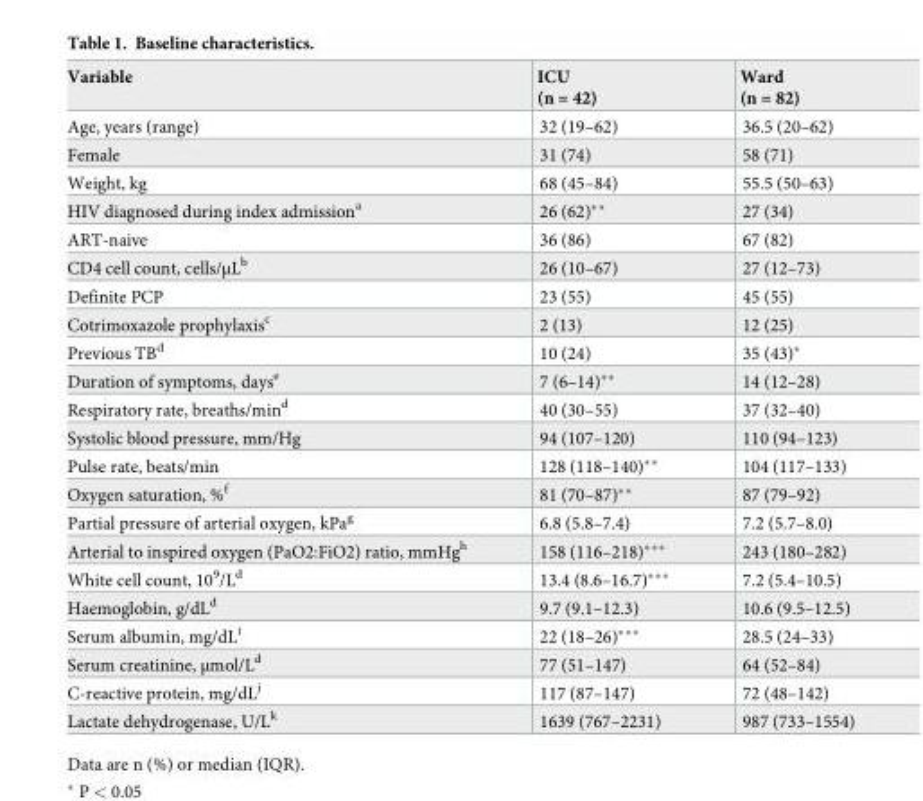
<table><thead><tr><td>Variable</td><td>ICU (n = 42)</td><td>Ward (n = 82)</td></tr></thead><tbody><tr><td>Age, years (range)</td><td>32 (19–62)</td><td>36.5 (20–62)</td></tr><tr><td>Female</td><td>31 (74)</td><td>58 (71)</td></tr><tr><td>Weight, kg</td><td>68 (45–84)</td><td>55.5 (50–63)</td></tr><tr><td>HIV diagnosed during index admission<sup>a</sup></td><td>26 (62)**</td><td>27 (34)</td></tr><tr><td>ART-naive</td><td>36 (86)</td><td>67 (82)</td></tr><tr><td>CD4 cell count, cells/μL<sup>b</sup></td><td>26 (10–67)</td><td>27 (12–73)</td></tr><tr><td>Definite PCP</td><td>23 (55)</td><td>45 (55)</td></tr><tr><td>Cotrimoxazole prophylaxis<sup>c</sup></td><td>2 (13)</td><td>12 (25)</td></tr><tr><td>Previous TB<sup>d</sup></td><td>10 (24)</td><td>35 (43)*</td></tr><tr><td>Duration of symptoms, days<sup>e</sup></td><td>7 (6–14)**</td><td>14 (12–28)</td></tr><tr><td>Respiratory rate, breaths/min<sup>d</sup></td><td>40 (30–55)</td><td>37 (32–40)</td></tr><tr><td>Systolic blood pressure, mm/Hg</td><td>94 (107–120)</td><td>110 (94–123)</td></tr><tr><td>Pulse rate, beats/min</td><td>128 (118–140)**</td><td>104 (117–133)</td></tr><tr><td>Oxygen saturation, %<sup>f</sup></td><td>81 (70–87)**</td><td>87 (79–92)</td></tr><tr><td>Partial pressure of arterial oxygen, kPa<sup>g</sup></td><td>6.8 (5.8–7.4)</td><td>7.2 (5.7–8.0)</td></tr><tr><td>Arterial to inspired oxygen (PaO2:FiO2) ratio, mmHg<sup>h</sup></td><td>158 (116–218)***</td><td>243 (180–282)</td></tr><tr><td>White cell count, 10<sup>9</sup>/L<sup>d</sup></td><td>13.4 (8.6–16.7)***</td><td>7.2 (5.4–10.5)</td></tr><tr><td>Haemoglobin, g/dL<sup>d</sup></td><td>9.7 (9.1–12.3)</td><td>10.6 (9.5–12.5)</td></tr><tr><td>Serum albumin, mg/dL<sup>i</sup></td><td>22 (18–26)***</td><td>28.5 (24–33)</td></tr><tr><td>Serum creatinine, μmol/L<sup>d</sup></td><td>77 (51–147)</td><td>64 (52–84)</td></tr><tr><td>C-reactive protein, mg/dL<sup>j</sup></td><td>117 (87–147)</td><td>72 (48–142)</td></tr><tr><td>Lactate dehydrogenase, U/L<sup>k</sup></td><td>1639 (767–2231)</td><td>987 (733–1554)</td></tr></tbody></table>